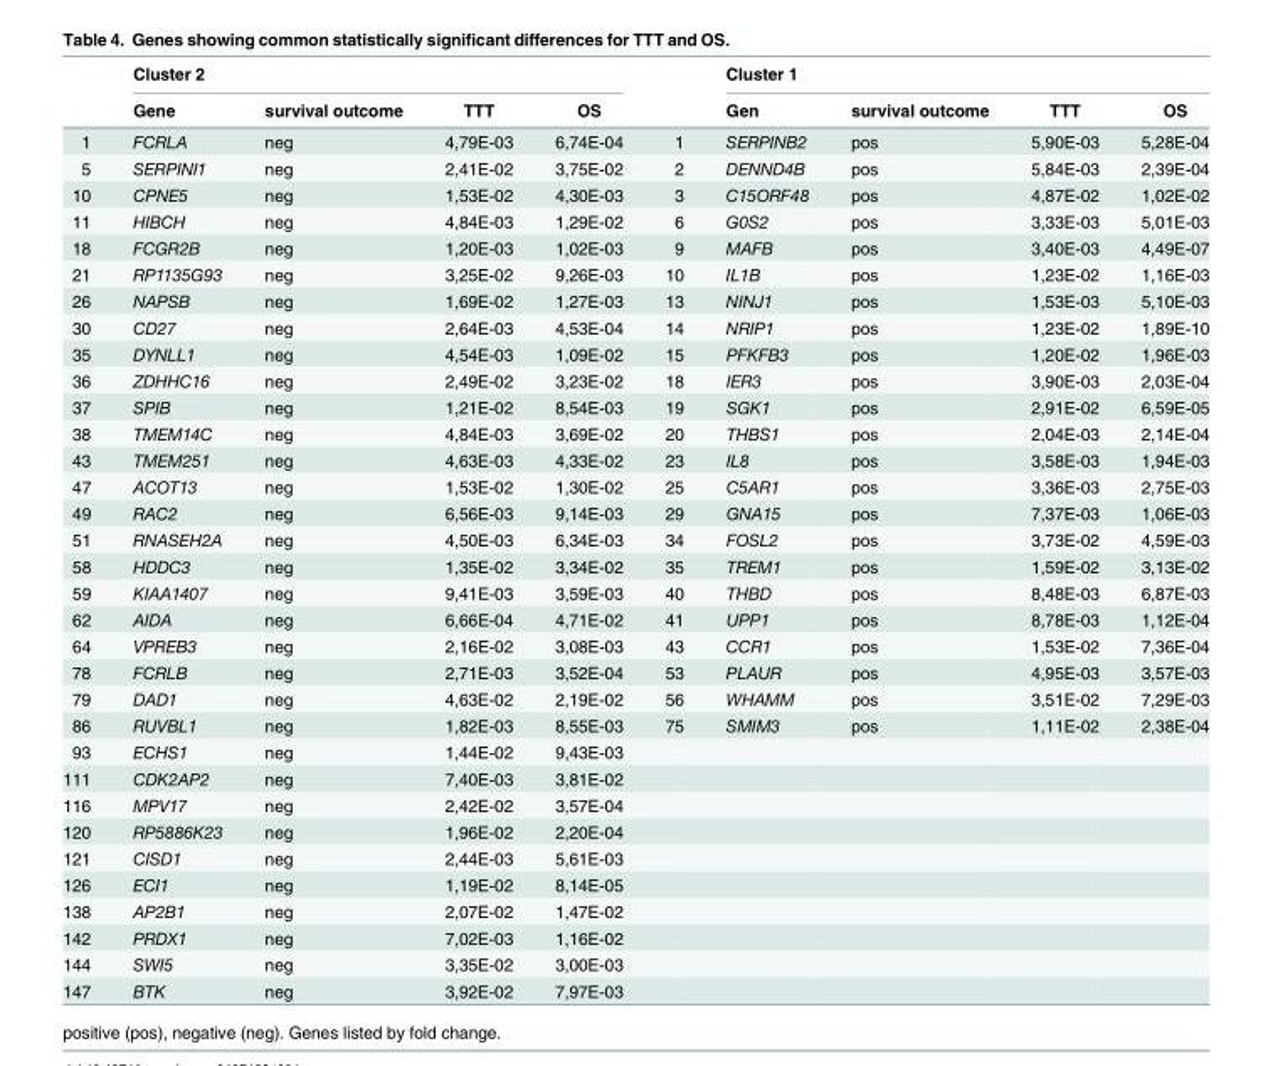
<table><thead><tr><td rowspan="2"></td><td colspan="4">Cluster 2</td><td rowspan="2"></td><td colspan="4">Cluster 1</td></tr><tr><td>Gene</td><td>survival outcome</td><td>TTT</td><td>OS</td><td>Gen</td><td>survival outcome</td><td>TTT</td><td>OS</td></tr></thead><tbody><tr><td>1</td><td>FCRLA</td><td>neg</td><td>4,79E-03</td><td>6,74E-04</td><td>1</td><td>SERPINB2</td><td>pos</td><td>5,90E-03</td><td>5,28E-04</td></tr><tr><td>5</td><td>SERPINI1</td><td>neg</td><td>2,41E-02</td><td>3,75E-02</td><td>2</td><td>DENND4B</td><td>pos</td><td>5,84E-03</td><td>2,39E-04</td></tr><tr><td>10</td><td>CPNE5</td><td>neg</td><td>1,53E-02</td><td>4,30E-03</td><td>3</td><td>C15ORF48</td><td>pos</td><td>4,87E-02</td><td>1,02E-02</td></tr><tr><td>11</td><td>HIBCH</td><td>neg</td><td>4,84E-03</td><td>1,29E-02</td><td>6</td><td>G0S2</td><td>pos</td><td>3,33E-03</td><td>5,01E-03</td></tr><tr><td>18</td><td>FCGR2B</td><td>neg</td><td>1,20E-03</td><td>1,02E-03</td><td>9</td><td>MAFB</td><td>pos</td><td>3,40E-03</td><td>4,49E-07</td></tr><tr><td>21</td><td>RP1135G93</td><td>neg</td><td>3,25E-02</td><td>9,26E-03</td><td>10</td><td>IL1B</td><td>pos</td><td>1,23E-02</td><td>1,16E-03</td></tr><tr><td>26</td><td>NAPSB</td><td>neg</td><td>1,69E-02</td><td>1,27E-03</td><td>13</td><td>NINJ1</td><td>pos</td><td>1,53E-03</td><td>5,10E-03</td></tr><tr><td>30</td><td>CD27</td><td>neg</td><td>2,64E-03</td><td>4,53E-04</td><td>14</td><td>NRIP1</td><td>pos</td><td>1,23E-02</td><td>1,89E-10</td></tr><tr><td>35</td><td>DYNLL1</td><td>neg</td><td>4,54E-03</td><td>1,09E-02</td><td>15</td><td>PFKFB3</td><td>pos</td><td>1,20E-02</td><td>1,96E-03</td></tr><tr><td>36</td><td>ZDHHC16</td><td>neg</td><td>2,49E-02</td><td>3,23E-02</td><td>18</td><td>IER3</td><td>pos</td><td>3,90E-03</td><td>2,03E-04</td></tr><tr><td>37</td><td>SPIB</td><td>neg</td><td>1,21E-02</td><td>8,54E-03</td><td>19</td><td>SGK1</td><td>pos</td><td>2,91E-02</td><td>6,59E-05</td></tr><tr><td>38</td><td>TMEM14C</td><td>neg</td><td>4,84E-03</td><td>3,69E-02</td><td>20</td><td>THBS1</td><td>pos</td><td>2,04E-03</td><td>2,14E-04</td></tr><tr><td>43</td><td>TMEM251</td><td>neg</td><td>4,63E-03</td><td>4,33E-02</td><td>23</td><td>IL8</td><td>pos</td><td>3,58E-03</td><td>1,94E-03</td></tr><tr><td>47</td><td>ACOT13</td><td>neg</td><td>1,53E-02</td><td>1,30E-02</td><td>25</td><td>C5AR1</td><td>pos</td><td>3,36E-03</td><td>2,75E-03</td></tr><tr><td>49</td><td>RAC2</td><td>neg</td><td>6,56E-03</td><td>9,14E-03</td><td>29</td><td>GNA15</td><td>pos</td><td>7,37E-03</td><td>1,06E-03</td></tr><tr><td>51</td><td>RNASEH2A</td><td>neg</td><td>4,50E-03</td><td>6,34E-03</td><td>34</td><td>FOSL2</td><td>pos</td><td>3,73E-02</td><td>4,59E-03</td></tr><tr><td>58</td><td>HDDC3</td><td>neg</td><td>1,35E-02</td><td>3,34E-02</td><td>35</td><td>TREM1</td><td>pos</td><td>1,59E-02</td><td>3,13E-02</td></tr><tr><td>59</td><td>KIAA1407</td><td>neg</td><td>9,41E-03</td><td>3,59E-03</td><td>40</td><td>THBD</td><td>pos</td><td>8,48E-03</td><td>6,87E-03</td></tr><tr><td>62</td><td>AIDA</td><td>neg</td><td>6,66E-04</td><td>4,71E-02</td><td>41</td><td>UPP1</td><td>pos</td><td>8,78E-03</td><td>1,12E-04</td></tr><tr><td>64</td><td>VPREB3</td><td>neg</td><td>2,16E-02</td><td>3,08E-03</td><td>43</td><td>CCR1</td><td>pos</td><td>1,53E-02</td><td>7,36E-04</td></tr><tr><td>78</td><td>FCRLB</td><td>neg</td><td>2,71E-03</td><td>3,52E-04</td><td>53</td><td>PLAUR</td><td>pos</td><td>4,95E-03</td><td>3,57E-03</td></tr><tr><td>79</td><td>DAD1</td><td>neg</td><td>4,63E-02</td><td>2,19E-02</td><td>56</td><td>WHAMM</td><td>pos</td><td>3,51E-02</td><td>7,29E-03</td></tr><tr><td>86</td><td>RUVBL1</td><td>neg</td><td>1,82E-03</td><td>8,55E-03</td><td>75</td><td>SMIM3</td><td>pos</td><td>1,11E-02</td><td>2,38E-04</td></tr><tr><td>93</td><td>ECHS1</td><td>neg</td><td>1,44E-02</td><td>9,43E-03</td><td></td><td></td><td></td><td></td><td></td></tr><tr><td>111</td><td>CDK2AP2</td><td>neg</td><td>7,40E-03</td><td>3,81E-02</td><td></td><td></td><td></td><td></td><td></td></tr><tr><td>116</td><td>MPV17</td><td>neg</td><td>2,42E-02</td><td>3,57E-04</td><td></td><td></td><td></td><td></td><td></td></tr><tr><td>120</td><td>RP5886K23</td><td>neg</td><td>1,96E-02</td><td>2,20E-04</td><td></td><td></td><td></td><td></td><td></td></tr><tr><td>121</td><td>CISD1</td><td>neg</td><td>2,44E-03</td><td>5,61E-03</td><td></td><td></td><td></td><td></td><td></td></tr><tr><td>126</td><td>ECI1</td><td>neg</td><td>1,19E-02</td><td>8,14E-05</td><td></td><td></td><td></td><td></td><td></td></tr><tr><td>138</td><td>AP2B1</td><td>neg</td><td>2,07E-02</td><td>1,47E-02</td><td></td><td></td><td></td><td></td><td></td></tr><tr><td>142</td><td>PRDX1</td><td>neg</td><td>7,02E-03</td><td>1,16E-02</td><td></td><td></td><td></td><td></td><td></td></tr><tr><td>144</td><td>SWI5</td><td>neg</td><td>3,35E-02</td><td>3,00E-03</td><td></td><td></td><td></td><td></td><td></td></tr><tr><td>147</td><td>BTK</td><td>neg</td><td>3,92E-02</td><td>7,97E-03</td><td></td><td></td><td></td><td></td><td></td></tr></tbody></table>